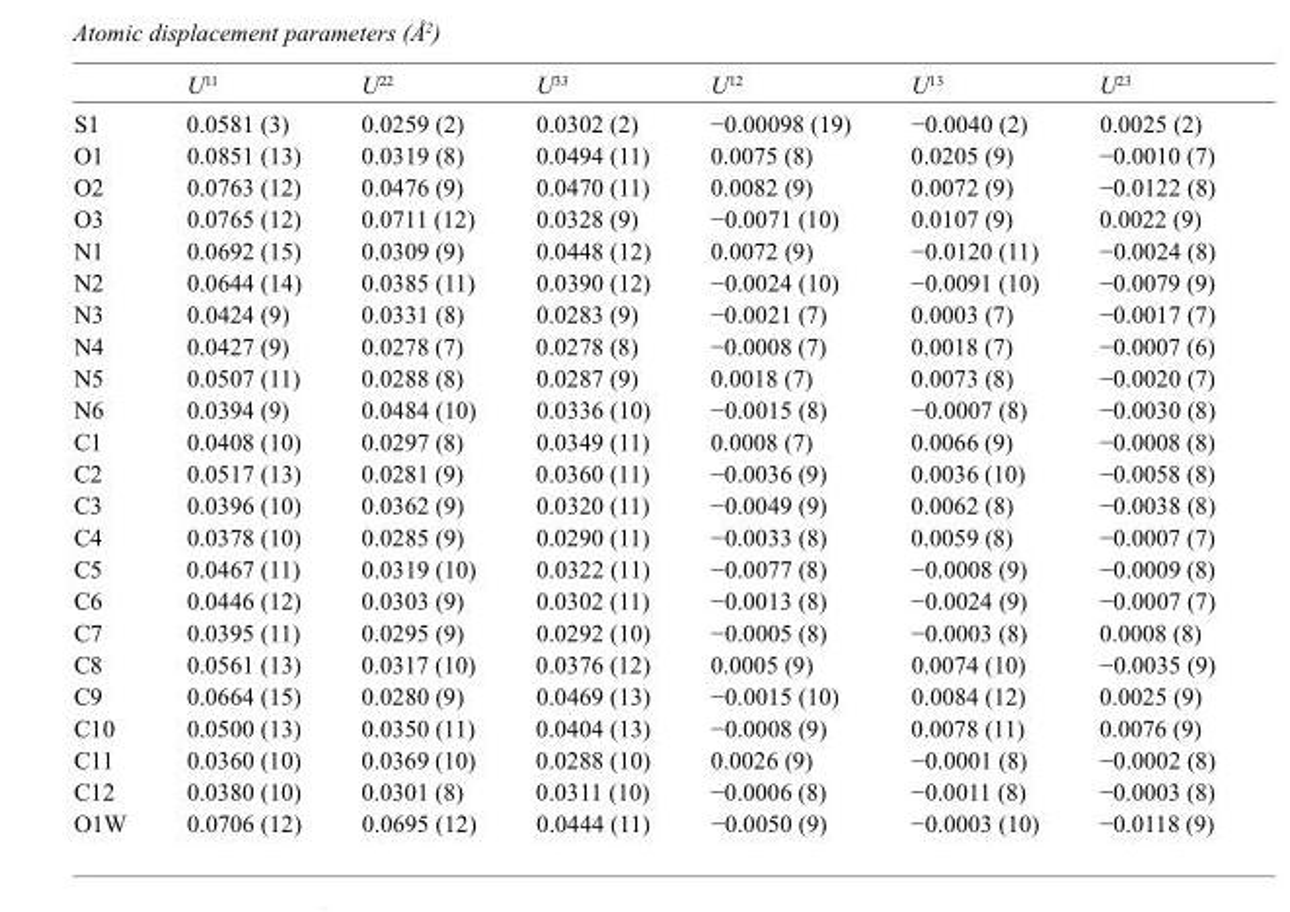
<table><thead><tr><td></td><td>U<sup>11</sup></td><td>U<sup>22</sup></td><td>U<sup>33</sup></td><td>U<sup>12</sup></td><td>U<sup>13</sup></td><td>U<sup>23</sup></td></tr></thead><tbody><tr><td>S1</td><td>0.0581 (3)</td><td>0.0259 (2)</td><td>0.0302 (2)</td><td>−0.00098 (19)</td><td>−0.0040 (2)</td><td>0.0025 (2)</td></tr><tr><td>O1</td><td>0.0851 (13)</td><td>0.0319 (8)</td><td>0.0494 (11)</td><td>0.0075 (8)</td><td>0.0205 (9)</td><td>−0.0010 (7)</td></tr><tr><td>O2</td><td>0.0763 (12)</td><td>0.0476 (9)</td><td>0.0470 (11)</td><td>0.0082 (9)</td><td>0.0072 (9)</td><td>−0.0122 (8)</td></tr><tr><td>O3</td><td>0.0765 (12)</td><td>0.0711 (12)</td><td>0.0328 (9)</td><td>−0.0071 (10)</td><td>0.0107 (9)</td><td>0.0022 (9)</td></tr><tr><td>N1</td><td>0.0692 (15)</td><td>0.0309 (9)</td><td>0.0448 (12)</td><td>0.0072 (9)</td><td>−0.0120 (11)</td><td>−0.0024 (8)</td></tr><tr><td>N2</td><td>0.0644 (14)</td><td>0.0385 (11)</td><td>0.0390 (12)</td><td>−0.0024 (10)</td><td>−0.0091 (10)</td><td>−0.0079 (9)</td></tr><tr><td>N3</td><td>0.0424 (9)</td><td>0.0331 (8)</td><td>0.0283 (9)</td><td>−0.0021 (7)</td><td>0.0003 (7)</td><td>−0.0017 (7)</td></tr><tr><td>N4</td><td>0.0427 (9)</td><td>0.0278 (7)</td><td>0.0278 (8)</td><td>−0.0008 (7)</td><td>0.0018 (7)</td><td>−0.0007 (6)</td></tr><tr><td>N5</td><td>0.0507 (11)</td><td>0.0288 (8)</td><td>0.0287 (9)</td><td>0.0018 (7)</td><td>0.0073 (8)</td><td>−0.0020 (7)</td></tr><tr><td>N6</td><td>0.0394 (9)</td><td>0.0484 (10)</td><td>0.0336 (10)</td><td>−0.0015 (8)</td><td>−0.0007 (8)</td><td>−0.0030 (8)</td></tr><tr><td>C1</td><td>0.0408 (10)</td><td>0.0297 (8)</td><td>0.0349 (11)</td><td>0.0008 (7)</td><td>0.0066 (9)</td><td>−0.0008 (8)</td></tr><tr><td>C2</td><td>0.0517 (13)</td><td>0.0281 (9)</td><td>0.0360 (11)</td><td>−0.0036 (9)</td><td>0.0036 (10)</td><td>−0.0058 (8)</td></tr><tr><td>C3</td><td>0.0396 (10)</td><td>0.0362 (9)</td><td>0.0320 (11)</td><td>−0.0049 (9)</td><td>0.0062 (8)</td><td>−0.0038 (8)</td></tr><tr><td>C4</td><td>0.0378 (10)</td><td>0.0285 (9)</td><td>0.0290 (11)</td><td>−0.0033 (8)</td><td>0.0059 (8)</td><td>−0.0007 (7)</td></tr><tr><td>C5</td><td>0.0467 (11)</td><td>0.0319 (10)</td><td>0.0322 (11)</td><td>−0.0077 (8)</td><td>−0.0008 (9)</td><td>−0.0009 (8)</td></tr><tr><td>C6</td><td>0.0446 (12)</td><td>0.0303 (9)</td><td>0.0302 (11)</td><td>−0.0013 (8)</td><td>−0.0024 (9)</td><td>−0.0007 (7)</td></tr><tr><td>C7</td><td>0.0395 (11)</td><td>0.0295 (9)</td><td>0.0292 (10)</td><td>−0.0005 (8)</td><td>−0.0003 (8)</td><td>0.0008 (8)</td></tr><tr><td>C8</td><td>0.0561 (13)</td><td>0.0317 (10)</td><td>0.0376 (12)</td><td>0.0005 (9)</td><td>0.0074 (10)</td><td>−0.0035 (9)</td></tr><tr><td>C9</td><td>0.0664 (15)</td><td>0.0280 (9)</td><td>0.0469 (13)</td><td>−0.0015 (10)</td><td>0.0084 (12)</td><td>0.0025 (9)</td></tr><tr><td>C10</td><td>0.0500 (13)</td><td>0.0350 (11)</td><td>0.0404 (13)</td><td>−0.0008 (9)</td><td>0.0078 (11)</td><td>0.0076 (9)</td></tr><tr><td>C11</td><td>0.0360 (10)</td><td>0.0369 (10)</td><td>0.0288 (10)</td><td>0.0026 (9)</td><td>−0.0001 (8)</td><td>−0.0002 (8)</td></tr><tr><td>C12</td><td>0.0380 (10)</td><td>0.0301 (8)</td><td>0.0311 (10)</td><td>−0.0006 (8)</td><td>−0.0011 (8)</td><td>−0.0003 (8)</td></tr><tr><td>O1W</td><td>0.0706 (12)</td><td>0.0695 (12)</td><td>0.0444 (11)</td><td>−0.0050 (9)</td><td>−0.0003 (10)</td><td>−0.0118 (9)</td></tr></tbody></table>